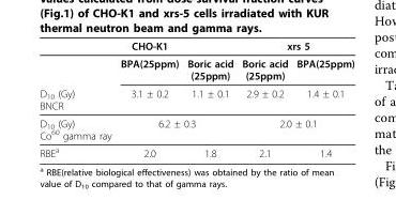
<table><thead><tr><td rowspan="2"></td><td rowspan="2">CHO-K1 BPA(25ppm)</td><td rowspan="2">Boric acid (25ppm)</td><td colspan="2">xrs 5</td></tr><tr><td>Boric acid (25ppm)</td><td>BPA(25ppm)</td></tr></thead><tbody><tr><td>D<sub>10</sub> (Gy) BNCR</td><td>3.1 ± 0.2</td><td>1.1 ± 0.1</td><td>2.9 ± 0.2</td><td>1.4 ± 0.1</td></tr><tr><td>D<sub>10</sub> (Gy) Co<sup>60</sup> gamma ray</td><td colspan="2">6.2 ± 0.3</td><td colspan="2">2.0 ± 0.1</td></tr><tr><td>RBE<sup>a</sup></td><td>2.0</td><td>1.8</td><td>2.1</td><td>1.4</td></tr></tbody></table>